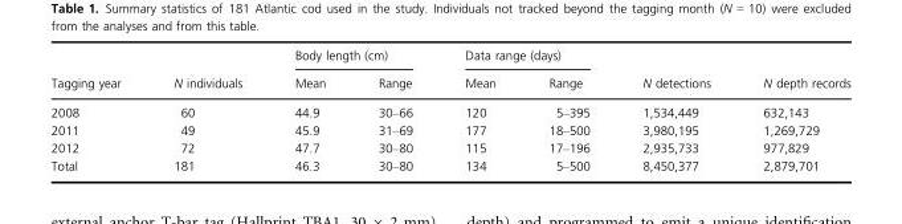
<table><thead><tr><td rowspan="2">Tagging year</td><td rowspan="2">N individuals</td><td colspan="2">Body length (cm)</td><td colspan="2">Data range (days)</td><td rowspan="2">N detections</td><td rowspan="2">N depth records</td></tr><tr><td>Mean</td><td>Range</td><td>Mean</td><td>Range</td></tr></thead><tbody><tr><td>2008</td><td>60</td><td>44.9</td><td>30–66</td><td>120</td><td>5–395</td><td>1,534,449</td><td>632,143</td></tr><tr><td>2011</td><td>49</td><td>45.9</td><td>31–69</td><td>177</td><td>18–500</td><td>3,980,195</td><td>1,269,729</td></tr><tr><td>2012</td><td>72</td><td>47.7</td><td>30–80</td><td>115</td><td>17–196</td><td>2,935,733</td><td>977,829</td></tr><tr><td>Total</td><td>181</td><td>46.3</td><td>30–80</td><td>134</td><td>5–500</td><td>8,450,377</td><td>2,879,701</td></tr></tbody></table>